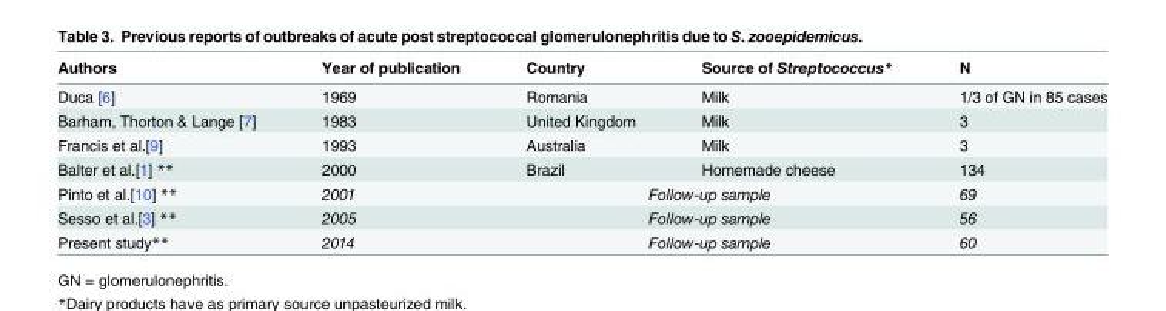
<table><thead><tr><td>Authors</td><td>Year of publication</td><td>Country</td><td>Source of Streptococcus*</td><td>N</td></tr></thead><tbody><tr><td>Duca [6]</td><td>1969</td><td>Romania</td><td>Milk</td><td>1/3 of GN in 85 cases</td></tr><tr><td>Barham, Thorton &amp; Lange [7]</td><td>1983</td><td>United Kingdom</td><td>Milk</td><td>3</td></tr><tr><td>Francis et al.[9]</td><td>1993</td><td>Australia</td><td>Milk</td><td>3</td></tr><tr><td>Balter et al.[1] **</td><td>2000</td><td>Brazil</td><td>Homemade cheese</td><td>134</td></tr><tr><td>Pinto et al.[10] **</td><td>2001</td><td colspan="2">Follow-up sample</td><td>69</td></tr><tr><td>Sesso et al.[3] **</td><td>2005</td><td colspan="2">Follow-up sample</td><td>56</td></tr><tr><td>Present study**</td><td>2014</td><td colspan="2">Follow-up sample</td><td>60</td></tr></tbody></table>